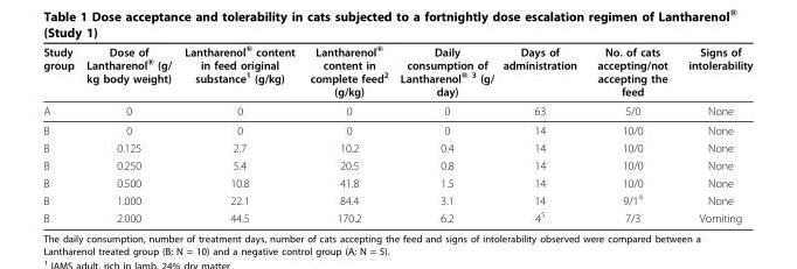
<table><thead><tr><td>Study group</td><td>Dose of Lantharenol<sup>®</sup> (g/ kg body weight)</td><td>Lantharenol<sup>®</sup> content in feed original substance<sup>1</sup> (g/kg)</td><td>Lantharenol<sup>®</sup> content in complete feed<sup>2</sup> (g/kg)</td><td>Daily consumption of Lantharenol<sup>® 3</sup> (g/ day)</td><td>Days of administration</td><td>No. of cats accepting/not accepting the feed</td><td>Signs of intolerability</td></tr></thead><tbody><tr><td>A</td><td>0</td><td>0</td><td>0</td><td>0</td><td>63</td><td>5/0</td><td>None</td></tr><tr><td>B</td><td>0</td><td>0</td><td>0</td><td>0</td><td>14</td><td>10/0</td><td>None</td></tr><tr><td>B</td><td>0.125</td><td>2.7</td><td>10.2</td><td>0.4</td><td>14</td><td>10/0</td><td>None</td></tr><tr><td>B</td><td>0.250</td><td>5.4</td><td>20.5</td><td>0.8</td><td>14</td><td>10/0</td><td>None</td></tr><tr><td>B</td><td>0.500</td><td>10.8</td><td>41.8</td><td>1.5</td><td>14</td><td>10/0</td><td>None</td></tr><tr><td>B</td><td>1.000</td><td>22.1</td><td>84.4</td><td>3.1</td><td>14</td><td>9/1<sup>4</sup></td><td>None</td></tr><tr><td>B</td><td>2.000</td><td>44.5</td><td>170.2</td><td>6.2</td><td>4<sup>5</sup></td><td>7/3</td><td>Vomiting</td></tr></tbody></table>